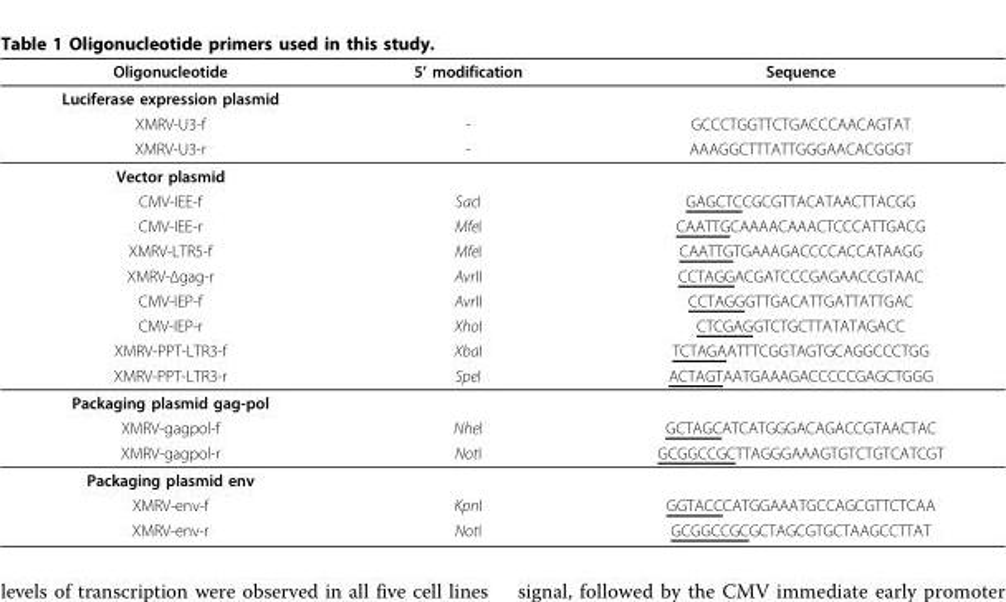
<table><thead><tr><td>Oligonucleotide</td><td>5’ modification</td><td>Sequence</td></tr></thead><tbody><tr><td colspan="3">Luciferase expression plasmid</td></tr><tr><td>XMRV-U3-f</td><td>-</td><td>GCCCTGGTTCTGACCCAACAGTAT</td></tr><tr><td>XMRV-U3-r</td><td>-</td><td>AAAGGCTTTATTGGGAACACGGGT</td></tr><tr><td colspan="3">Vector plasmid</td></tr><tr><td>CMV-IEE-f</td><td>SacI</td><td>GAGCTCCGCGTTACATAACTTACGG</td></tr><tr><td>CMV-IEE-r</td><td>MfeI</td><td>CAATTGCAAAACAAACTCCCATTGACG</td></tr><tr><td>XMRV-LTR5-f</td><td>MfeI</td><td>CAATTGTGAAAGACCCCACCATAAGG</td></tr><tr><td>XMRV-Δgag-r</td><td>AvrII</td><td>CCTAGGACGATCCCGAGAACCGTAAC</td></tr><tr><td>CMV-IEP-f</td><td>AvrII</td><td>CCTAGGGTTGACATTGATTATTGAC</td></tr><tr><td>CMV-IEP-r</td><td>XhoI</td><td>CTCGAGGTCTGCTTATATAGACC</td></tr><tr><td>XMRV-PPT-LTR3-f</td><td>XbaI</td><td>TCTAGAATTTCGGTAGTGCAGGCCCTGG</td></tr><tr><td>XMRV-PPT-LTR3-r</td><td>SpeI</td><td>ACTAGTAATGAAAGACCCCCGAGCTGGG</td></tr><tr><td colspan="3">Packaging plasmid gag-pol</td></tr><tr><td>XMRV-gagpol-f</td><td>NheI</td><td>GCTAGCATCATGGGACAGACCGTAACTAC</td></tr><tr><td>XMRV-gagpol-r</td><td>NotI</td><td>GCGGCCGCTTAGGGAAAGTGTCTGTCATCGT</td></tr><tr><td colspan="3">Packaging plasmid env</td></tr><tr><td>XMRV-env-f</td><td>KpnI</td><td>GGTACCCATGGAAATGCCAGCGTTCTCAA</td></tr><tr><td>XMRV-env-r</td><td>NotI</td><td>GCGGCCGCGCTAGCGTGCTAAGCCTTAT</td></tr></tbody></table>